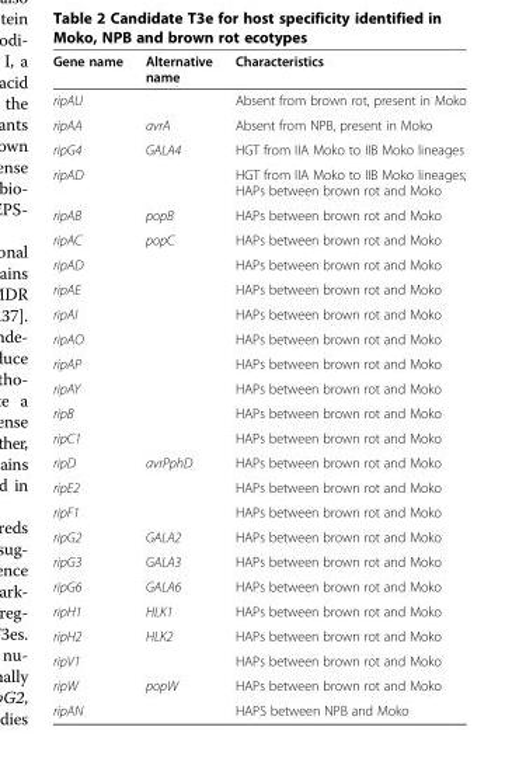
<table><thead><tr><td>Gene name</td><td>Alternative name</td><td>Characteristics</td></tr></thead><tbody><tr><td>ripAU</td><td></td><td>Absent from brown rot, present in Moko</td></tr><tr><td>ripAA</td><td>avrA</td><td>Absent from NPB, present in Moko</td></tr><tr><td>ripG4</td><td>GALA4</td><td>HGT from IIA Moko to IIB Moko lineages</td></tr><tr><td>ripAD</td><td></td><td>HGT from IIA Moko to IIB Moko lineages; HAPs between brown rot and Moko</td></tr><tr><td>ripAB</td><td>popB</td><td>HAPs between brown rot and Moko</td></tr><tr><td>ripAC</td><td>popC</td><td>HAPs between brown rot and Moko</td></tr><tr><td>ripAD</td><td></td><td>HAPs between brown rot and Moko</td></tr><tr><td>ripAE</td><td></td><td>HAPs between brown rot and Moko</td></tr><tr><td>ripAI</td><td></td><td>HAPs between brown rot and Moko</td></tr><tr><td>ripAO</td><td></td><td>HAPs between brown rot and Moko</td></tr><tr><td>ripAP</td><td></td><td>HAPs between brown rot and Moko</td></tr><tr><td>ripAY</td><td></td><td>HAPs between brown rot and Moko</td></tr><tr><td>ripB</td><td></td><td>HAPs between brown rot and Moko</td></tr><tr><td>ripC1</td><td></td><td>HAPs between brown rot and Moko</td></tr><tr><td>ripD</td><td>avrPphD</td><td>HAPs between brown rot and Moko</td></tr><tr><td>ripE2</td><td></td><td>HAPs between brown rot and Moko</td></tr><tr><td>ripF1</td><td></td><td>HAPs between brown rot and Moko</td></tr><tr><td>ripG2</td><td>GALA2</td><td>HAPs between brown rot and Moko</td></tr><tr><td>ripG3</td><td>GALA3</td><td>HAPs between brown rot and Moko</td></tr><tr><td>ripG6</td><td>GALA6</td><td>HAPs between brown rot and Moko</td></tr><tr><td>ripH1</td><td>HLK1</td><td>HAPs between brown rot and Moko</td></tr><tr><td>ripH2</td><td>HLK2</td><td>HAPs between brown rot and Moko</td></tr><tr><td>ripV1</td><td></td><td>HAPs between brown rot and Moko</td></tr><tr><td>ripW</td><td>popW</td><td>HAPs between brown rot and Moko</td></tr><tr><td>ripAN</td><td></td><td>HAPS between NPB and Moko</td></tr></tbody></table>